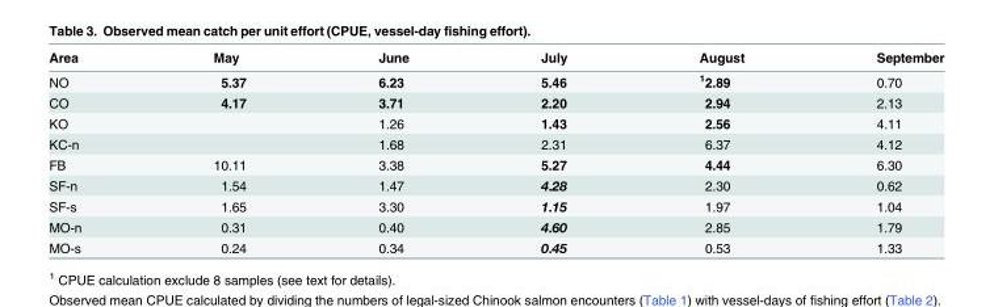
<table><thead><tr><td>Area</td><td>May</td><td>June</td><td>July</td><td>August</td><td>September</td></tr></thead><tbody><tr><td>NO</td><td>5.37</td><td>6.23</td><td>5.46</td><td><sup>1</sup>2.89</td><td>0.70</td></tr><tr><td>CO</td><td>4.17</td><td>3.71</td><td>2.20</td><td>2.94</td><td>2.13</td></tr><tr><td>KO</td><td></td><td>1.26</td><td>1.43</td><td>2.56</td><td>4.11</td></tr><tr><td>KC-n</td><td></td><td>1.68</td><td>2.31</td><td>6.37</td><td>4.12</td></tr><tr><td>FB</td><td>10.11</td><td>3.38</td><td>5.27</td><td>4.44</td><td>6.30</td></tr><tr><td>SF-n</td><td>1.54</td><td>1.47</td><td>4.28</td><td>2.30</td><td>0.62</td></tr><tr><td>SF-s</td><td>1.65</td><td>3.30</td><td>1.15</td><td>1.97</td><td>1.04</td></tr><tr><td>MO-n</td><td>0.31</td><td>0.40</td><td>4.60</td><td>2.85</td><td>1.79</td></tr><tr><td>MO-s</td><td>0.24</td><td>0.34</td><td>0.45</td><td>0.53</td><td>1.33</td></tr></tbody></table>